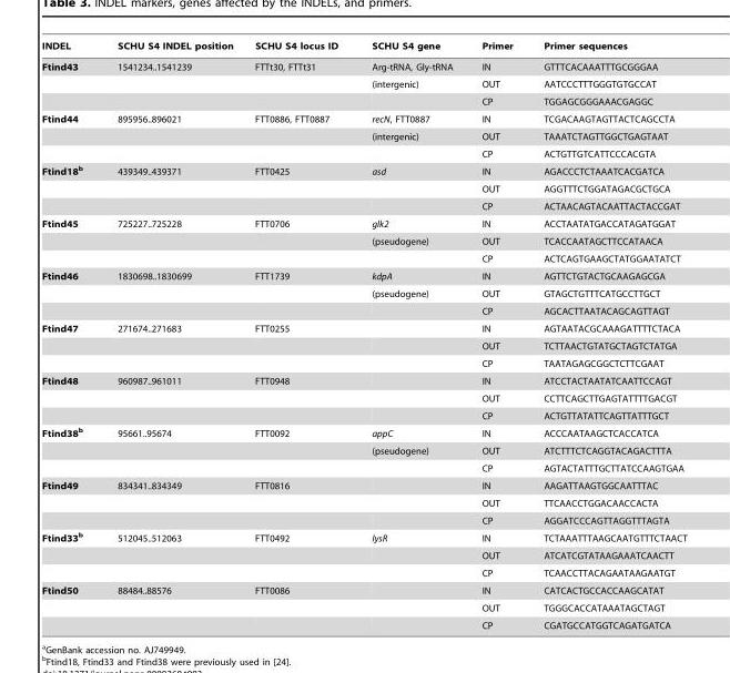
<table><thead><tr><td>INDEL</td><td>SCHU S4 INDEL position</td><td>SCHU S4 locus ID</td><td>SCHU S4 gene</td><td>Primer</td><td>Primer sequences</td></tr></thead><tbody><tr><td rowspan="3">Ftind43</td><td>1541234..1541239</td><td>FTTt30, FTTt31</td><td>Arg-tRNA, Gly-tRNA</td><td>IN</td><td>GTTTCACAAATTTGCGGGAA</td></tr><tr><td></td><td></td><td>(intergenic)</td><td>OUT</td><td>AATCCCTTTGGGTGTGCCAT</td></tr><tr><td></td><td></td><td></td><td>CP</td><td>TGGAGCGGGAAACGAGGC</td></tr><tr><td rowspan="3">Ftind44</td><td>895956..896021</td><td>FTT0886, FTT0887</td><td>recN, FTT0887</td><td>IN</td><td>TCGACAAGTAGTTACTCAGCCTA</td></tr><tr><td></td><td></td><td>(intergenic)</td><td>OUT</td><td>TAAATCTAGTTGGCTGAGTAAT</td></tr><tr><td></td><td></td><td></td><td>CP</td><td>ACTGTTGTCATTCCCACGTA</td></tr><tr><td rowspan="3">Ftind18<sup>b</sup></td><td>439349..439371</td><td>FTT0425</td><td>asd</td><td>IN</td><td>AGACCCTCTAAATCACGATCA</td></tr><tr><td></td><td></td><td></td><td>OUT</td><td>AGGTTTCTGGATAGACGCTGCA</td></tr><tr><td></td><td></td><td></td><td>CP</td><td>ACTAACAGTACAATTACTACCGAT</td></tr><tr><td rowspan="3">Ftind45</td><td>725227..725228</td><td>FTT0706</td><td>glk2</td><td>IN</td><td>ACCTAATATGACCATAGATGGAT</td></tr><tr><td></td><td></td><td>(pseudogene)</td><td>OUT</td><td>TCACCAATAGCTTCCATAACA</td></tr><tr><td></td><td></td><td></td><td>CP</td><td>ACTCAGTGAAGCTATGGAATATCT</td></tr><tr><td rowspan="3">Ftind46</td><td>1830698..1830699</td><td>FTT1739</td><td>kdpA</td><td>IN</td><td>AGTTCTGTACTGCAAGAGCGA</td></tr><tr><td></td><td></td><td>(pseudogene)</td><td>OUT</td><td>GTAGCTGTTTCATGCCTTGCT</td></tr><tr><td></td><td></td><td></td><td>CP</td><td>AGCACTTAATACAGCAGTTAGT</td></tr><tr><td rowspan="3">Ftind47</td><td>271674..271683</td><td>FTT0255</td><td></td><td>IN</td><td>AGTAATACGCAAAGATTTTCTACA</td></tr><tr><td></td><td></td><td></td><td>OUT</td><td>TCTTAACTGTATGCTAGTCTATGA</td></tr><tr><td></td><td></td><td></td><td>CP</td><td>TAATAGAGCGGCTCTTCGAAT</td></tr><tr><td rowspan="3">Ftind48</td><td>960987..961011</td><td>FTT0948</td><td></td><td>IN</td><td>ATCCTACTAATATCAATTCCAGT</td></tr><tr><td></td><td></td><td></td><td>OUT</td><td>CCTTCAGCTTGAGTATTTTGACGT</td></tr><tr><td></td><td></td><td></td><td>CP</td><td>ACTGTTATATTCAGTTATTTGCT</td></tr><tr><td rowspan="3">Ftind38b</td><td>95661..95674</td><td>FTT0092</td><td>appC</td><td>IN</td><td>ACCCAATAAGCTCACCATCA</td></tr><tr><td></td><td></td><td>(pseudogene)</td><td>OUT</td><td>ATCTTTCTCAGGTACAGACTTTA</td></tr><tr><td></td><td></td><td></td><td>CP</td><td>AGTACTATTTGCTTATCCAAGTGAA</td></tr><tr><td rowspan="3">Ftind49</td><td>834341..834349</td><td>FTT0816</td><td></td><td>IN</td><td>AAGATTAAGTGGCAATTTAC</td></tr><tr><td></td><td></td><td></td><td>OUT</td><td>TTCAACCTGGACAACCACTA</td></tr><tr><td></td><td></td><td></td><td>CP</td><td>AGGATCCCAGTTAGGTTTAGTA</td></tr><tr><td rowspan="3">Ftind33<sup>b</sup></td><td>512045..512063</td><td>FTT0492</td><td>lysR</td><td>IN</td><td>TCTAAATTTAAGCAATGTTTCTAACT</td></tr><tr><td></td><td></td><td></td><td>OUT</td><td>ATCATCGTATAAGAAATCAACTT</td></tr><tr><td></td><td></td><td></td><td>CP</td><td>TCAACCTTACAGAATAAGAATGT</td></tr><tr><td rowspan="3">Ftind50</td><td>88484..88576</td><td>FTT0086</td><td></td><td>IN</td><td>CATCACTGCCACCAAGCATAT</td></tr><tr><td></td><td></td><td></td><td>OUT</td><td>TGGGCACCATAAATAGCTAGT</td></tr><tr><td></td><td></td><td></td><td>CP</td><td>CGATGCCATGGTCAGATGATCA</td></tr></tbody></table>